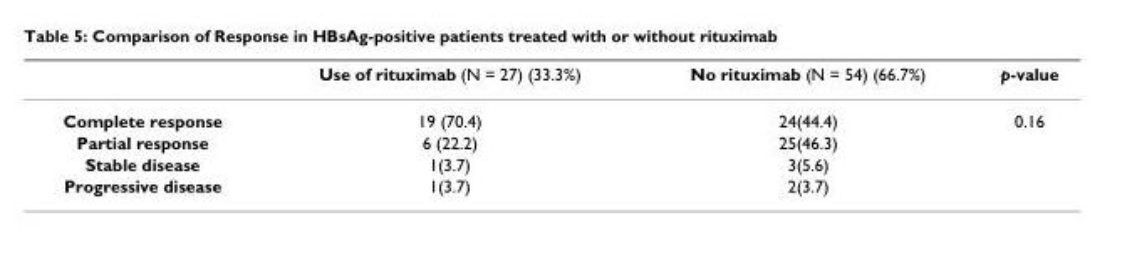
<table><thead><tr><td></td><td>Use of rituximab (N = 27) (33.3%)</td><td>No rituximab (N = 54) (66.7%)</td><td>p-value</td></tr></thead><tbody><tr><td>Complete response</td><td>19 (70.4)</td><td>24(44.4)</td><td>0.16</td></tr><tr><td>Partial response</td><td>6 (22.2)</td><td>25(46.3)</td><td></td></tr><tr><td>Stable disease</td><td>1(3.7)</td><td>3(5.6)</td><td></td></tr><tr><td>Progressive disease</td><td>1(3.7)</td><td>2(3.7)</td><td></td></tr></tbody></table>